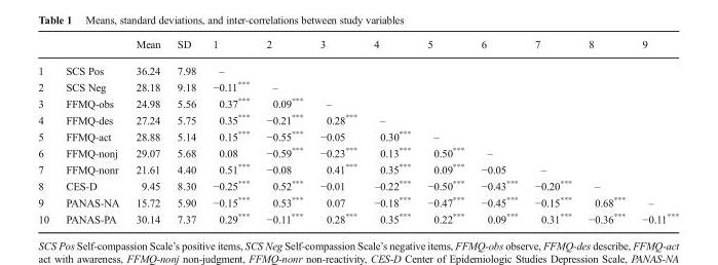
<table><thead><tr><td></td><td></td><td>Mean</td><td>SD</td><td>1</td><td>2</td><td>3</td><td>4</td><td>5</td><td>6</td><td>7</td><td>8</td><td>9</td></tr></thead><tbody><tr><td>1</td><td>SCS Pos</td><td>36.24</td><td>7.98</td><td>–</td><td></td><td></td><td></td><td></td><td></td><td></td><td></td><td></td></tr><tr><td>2</td><td>SCS Neg</td><td>28.18</td><td>9.18</td><td>−0.11***</td><td>–</td><td></td><td></td><td></td><td></td><td></td><td></td><td></td></tr><tr><td>3</td><td>FFMQ-obs</td><td>24.98</td><td>5.56</td><td>0.37***</td><td>0.09***</td><td>–</td><td></td><td></td><td></td><td></td><td></td><td></td></tr><tr><td>4</td><td>FFMQ-des</td><td>27.24</td><td>5.75</td><td>0.35***</td><td>−0.21***</td><td>0.28***</td><td>–</td><td></td><td></td><td></td><td></td><td></td></tr><tr><td>5</td><td>FFMQ-act</td><td>28.88</td><td>5.14</td><td>0.15***</td><td>−0.55***</td><td>−0.05</td><td>0.30***</td><td>–</td><td></td><td></td><td></td><td></td></tr><tr><td>6</td><td>FFMQ-nonj</td><td>29.07</td><td>5.68</td><td>0.08</td><td>−0.59***</td><td>−0.23***</td><td>0.13***</td><td>0.50***</td><td>–</td><td></td><td></td><td></td></tr><tr><td>7</td><td>FFMQ-nonr</td><td>21.61</td><td>4.40</td><td>0.51***</td><td>−0.08</td><td>0.41***</td><td>0.35***</td><td>0.09***</td><td>−0.05</td><td>–</td><td></td><td></td></tr><tr><td>8</td><td>CES-D</td><td>9.45</td><td>8.30</td><td>−0.25***</td><td>0.52***</td><td>−0.01</td><td>–0.22***</td><td>−0.50***</td><td>−0.43***</td><td>−0.20***</td><td>–</td><td></td></tr><tr><td>9</td><td>PANAS-NA</td><td>15.72</td><td>5.90</td><td>−0.15***</td><td>0.53***</td><td>0.07</td><td>−0.18***</td><td>−0.47***</td><td>−0.45***</td><td>−0.15***</td><td>0.68***</td><td>–</td></tr><tr><td>10</td><td>PANAS-PA</td><td>30.14</td><td>7.37</td><td>0.29***</td><td>−0.11***</td><td>0.28***</td><td>0.35***</td><td>0.22***</td><td>0.09***</td><td>0.31***</td><td>−0.36***</td><td>−0.11***</td></tr></tbody></table>